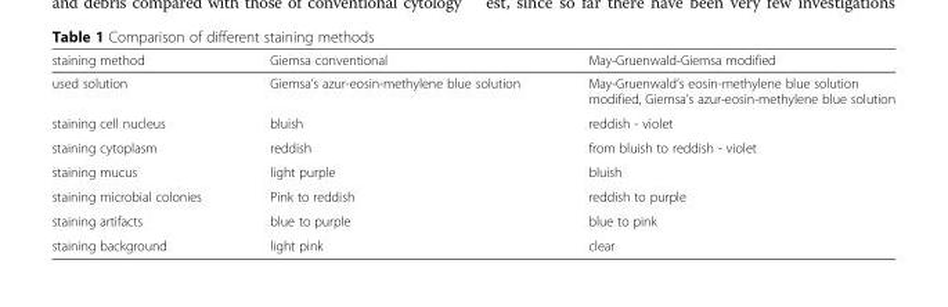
<table><thead><tr><td>staining method</td><td>Giemsa conventional</td><td>May-Gruenwald-Giemsa modified</td></tr></thead><tbody><tr><td>used solution</td><td>Giemsa’s azur-eosin-methylene blue solution</td><td>May-Gruenwald’s eosin-methylene blue solution modified, Giemsa’s azur-eosin-methylene blue solution</td></tr><tr><td>staining cell nucleus</td><td>bluish</td><td>reddish - violet</td></tr><tr><td>staining cytoplasm</td><td>reddish</td><td>from bluish to reddish - violet</td></tr><tr><td>staining mucus</td><td>light purple</td><td>bluish</td></tr><tr><td>staining microbial colonies</td><td>Pink to reddish</td><td>reddish to purple</td></tr><tr><td>staining artifacts</td><td>blue to purple</td><td>blue to pink</td></tr><tr><td>staining background</td><td>light pink</td><td>clear</td></tr></tbody></table>